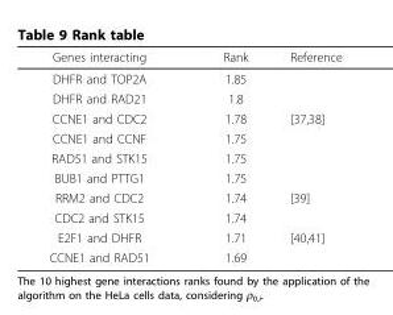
<table><thead><tr><td>Genes interacting</td><td>Rank</td><td>Reference</td></tr></thead><tbody><tr><td>DHFR and TOP2A</td><td>1.85</td><td></td></tr><tr><td>DHFR and RAD21</td><td>1.8</td><td></td></tr><tr><td>CCNE1 and CDC2</td><td>1.78</td><td>[37,38]</td></tr><tr><td>CCNE1 and CCNF</td><td>1.75</td><td></td></tr><tr><td>RAD51 and STK15</td><td>1.75</td><td></td></tr><tr><td>BUB1 and PTTG1</td><td>1.75</td><td></td></tr><tr><td>RRM2 and CDC2</td><td>1.74</td><td>[39]</td></tr><tr><td>CDC2 and STK15</td><td>1.74</td><td></td></tr><tr><td>E2F1 and DHFR</td><td>1.71</td><td>[40,41]</td></tr><tr><td>CCNE1 and RAD51</td><td>1.69</td><td></td></tr></tbody></table>